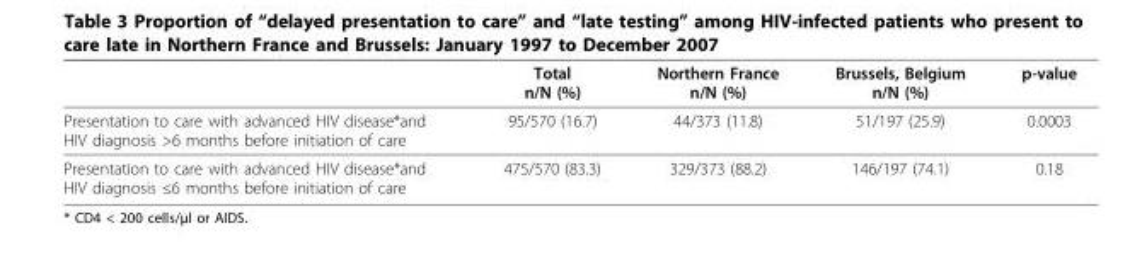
<table><thead><tr><td></td><td>Total n/N (%)</td><td>Northern France n/N (%)</td><td>Brussels, Belgium n/N (%)</td><td>p-value</td></tr></thead><tbody><tr><td>Presentation to care with advanced HIV disease*and HIV diagnosis &gt;6 months before initiation of care</td><td>95/570 (16.7)</td><td>44/373 (11.8)</td><td>51/197 (25.9)</td><td>0.0003</td></tr><tr><td>Presentation to care with advanced HIV disease*and HIV diagnosis ≤6 months before initiation of care</td><td>475/570 (83.3)</td><td>329/373 (88.2)</td><td>146/197 (74.1)</td><td>0.18</td></tr></tbody></table>